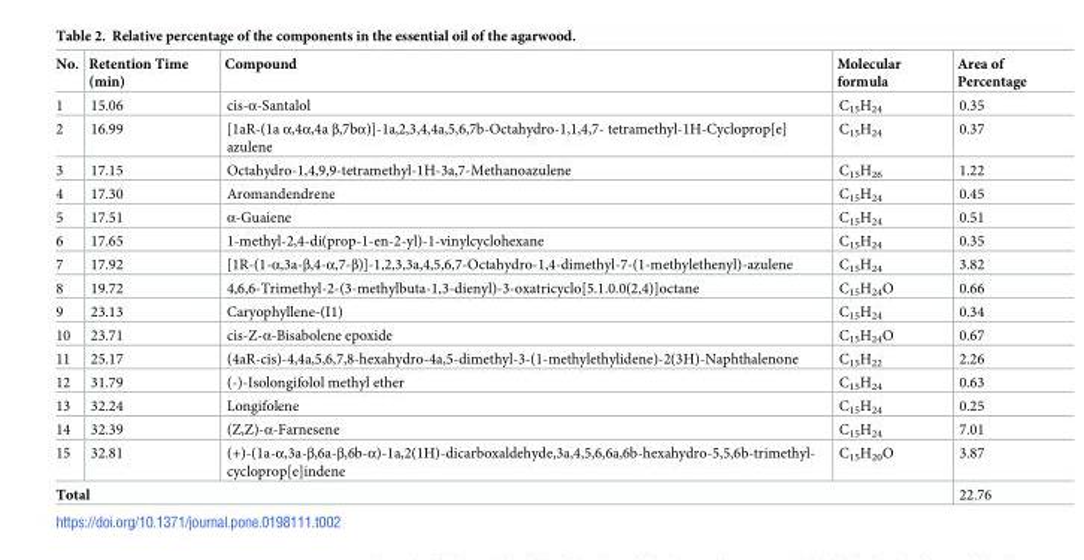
<table><thead><tr><td>No.</td><td>Retention Time (min)</td><td>Compound</td><td>Molecular formula</td><td>Area of Percentage</td></tr></thead><tbody><tr><td>1</td><td>15.06</td><td>cis-α-Santalol</td><td>C<sub>15</sub>H<sub>24</sub></td><td>0.35</td></tr><tr><td>2</td><td>16.99</td><td>[1aR-(1a α,4α,4a β,7bα)]-1a,2,3,4,4a,5,6,7b-Octahydro-1,1,4,7- tetramethyl-1H-Cycloprop[e] azulene</td><td>C<sub>15</sub>H<sub>24</sub></td><td>0.37</td></tr><tr><td>3</td><td>17.15</td><td>Octahydro-1,4,9,9-tetramethyl-1H-3a,7-Methanoazulene</td><td>C<sub>15</sub>H<sub>26</sub></td><td>1.22</td></tr><tr><td>4</td><td>17.30</td><td>Aromandendrene</td><td>C<sub>15</sub>H<sub>24</sub></td><td>0.45</td></tr><tr><td>5</td><td>17.51</td><td>α-Guaiene</td><td>C<sub>15</sub>H<sub>24</sub></td><td>0.51</td></tr><tr><td>6</td><td>17.65</td><td>1-methyl-2,4-di(prop-1-en-2-yl)-1-vinylcyclohexane</td><td>C<sub>15</sub>H<sub>24</sub></td><td>0.35</td></tr><tr><td>7</td><td>17.92</td><td>[1R-(1-α,3a-β,4-α,7-β)]-1,2,3,3a,4,5,6,7-Octahydro-1,4-dimethyl-7-(1-methylethenyl)-azulene</td><td>C<sub>15</sub>H<sub>24</sub></td><td>3.82</td></tr><tr><td>8</td><td>19.72</td><td>4,6,6-Trimethyl-2-(3-methylbuta-1,3-dienyl)-3-oxatricyclo[5.1.0.0(2,4)]octane</td><td>C<sub>15</sub>H<sub>24</sub>O</td><td>0.66</td></tr><tr><td>9</td><td>23.13</td><td>Caryophyllene-(I1)</td><td>C<sub>15</sub>H<sub>24</sub></td><td>0.34</td></tr><tr><td>10</td><td>23.71</td><td>cis-Z-α-Bisabolene epoxide</td><td>C<sub>15</sub>H<sub>24</sub>O</td><td>0.67</td></tr><tr><td>11</td><td>25.17</td><td>(4aR-cis)-4,4a,5,6,7,8-hexahydro-4a,5-dimethyl-3-(1-methylethylidene)-2(3H)-Naphthalenone</td><td>C<sub>15</sub>H<sub>22</sub></td><td>2.26</td></tr><tr><td>12</td><td>31.79</td><td>(-)-Isolongifolol methyl ether</td><td>C<sub>15</sub>H<sub>24</sub></td><td>0.63</td></tr><tr><td>13</td><td>32.24</td><td>Longifolene</td><td>C<sub>15</sub>H<sub>24</sub></td><td>0.25</td></tr><tr><td>14</td><td>32.39</td><td>(Z,Z)-α-Farnesene</td><td>C<sub>15</sub>H<sub>24</sub></td><td>7.01</td></tr><tr><td>15</td><td>32.81</td><td>(+)-(1a-α,3a-β,6a-β,6b-α)-1a,2(1H)-dicarboxaldehyde,3a,4,5,6,6a,6b-hexahydro-5,5,6b-trimethyl- cycloprop[e]indene</td><td>C<sub>15</sub>H<sub>20</sub>O</td><td>3.87</td></tr><tr><td colspan="4">Total</td><td>22.76</td></tr></tbody></table>